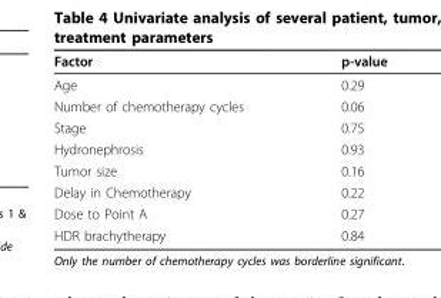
<table><thead><tr><td>Factor</td><td>p-value</td></tr></thead><tbody><tr><td>Age</td><td>0.29</td></tr><tr><td>Number of chemotherapy cycles</td><td>0.06</td></tr><tr><td>Stage</td><td>0.75</td></tr><tr><td>Hydronephrosis</td><td>0.93</td></tr><tr><td>Tumor size</td><td>0.16</td></tr><tr><td>Delay in Chemotherapy</td><td>0.22</td></tr><tr><td>Dose to Point A</td><td>0.27</td></tr><tr><td>HDR brachytherapy</td><td>0.84</td></tr></tbody></table>